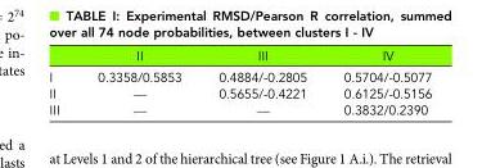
<table><thead><tr><td></td><td>II</td><td>III</td><td>IV</td></tr></thead><tbody><tr><td>I</td><td>0.3358/0.5853</td><td>0.4884/-0.2805</td><td>0.5704/-0.5077</td></tr><tr><td>II</td><td>—</td><td>0.5655/-0.4221</td><td>0.6125/-0.5156</td></tr><tr><td>III</td><td>—</td><td>—</td><td>0.3832/0.2390</td></tr></tbody></table>